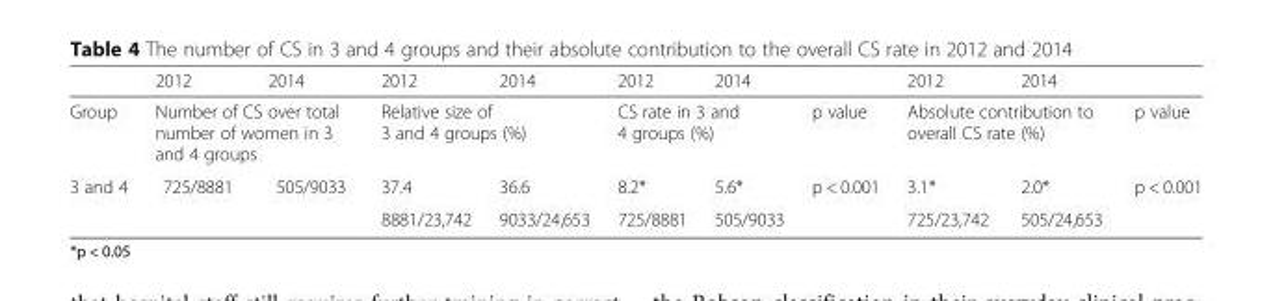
<table><thead><tr><td></td><td>2012</td><td>2014</td><td>2012</td><td>2014</td><td>2012</td><td>2014</td><td></td><td>2012</td><td>2014</td><td></td></tr></thead><tbody><tr><td>Group</td><td colspan="2">Number of CS over total number of women in 3 and 4 groups</td><td colspan="2">Relative size of 3 and 4 groups (%)</td><td colspan="2">CS rate in 3 and 4 groups (%)</td><td>p value</td><td colspan="2">Absolute contribution to overall CS rate (%)</td><td>p value</td></tr><tr><td rowspan="2">3 and 4</td><td rowspan="2">725/8881</td><td rowspan="2">505/9033</td><td>37.4</td><td>36.6</td><td>8.2*</td><td>5.6*</td><td rowspan="2">p &lt; 0.001</td><td>3.1*</td><td>2.0*</td><td rowspan="2">p &lt; 0.001</td></tr><tr><td>8881/23,742</td><td>9033/24,653</td><td>725/8881</td><td>505/9033</td><td>725/23,742</td><td>505/24,653</td></tr></tbody></table>